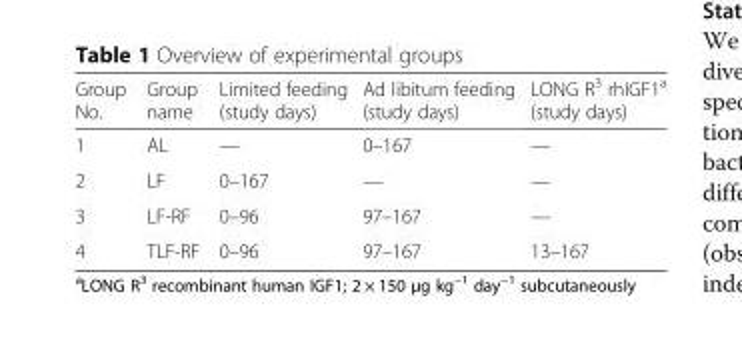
<table><thead><tr><td>Group No.</td><td>Group name</td><td>Limited feeding (study days)</td><td>Ad libitum feeding (study days)</td><td>LONG R<sup>3</sup> rhIGF1<sup>a</sup> (study days)</td></tr></thead><tbody><tr><td>1</td><td>AL</td><td>—</td><td>0–167</td><td>—</td></tr><tr><td>2</td><td>LF</td><td>0–167</td><td>—</td><td>—</td></tr><tr><td>3</td><td>LF-RF</td><td>0–96</td><td>97–167</td><td>—</td></tr><tr><td>4</td><td>TLF-RF</td><td>0–96</td><td>97–167</td><td>13–167</td></tr></tbody></table>